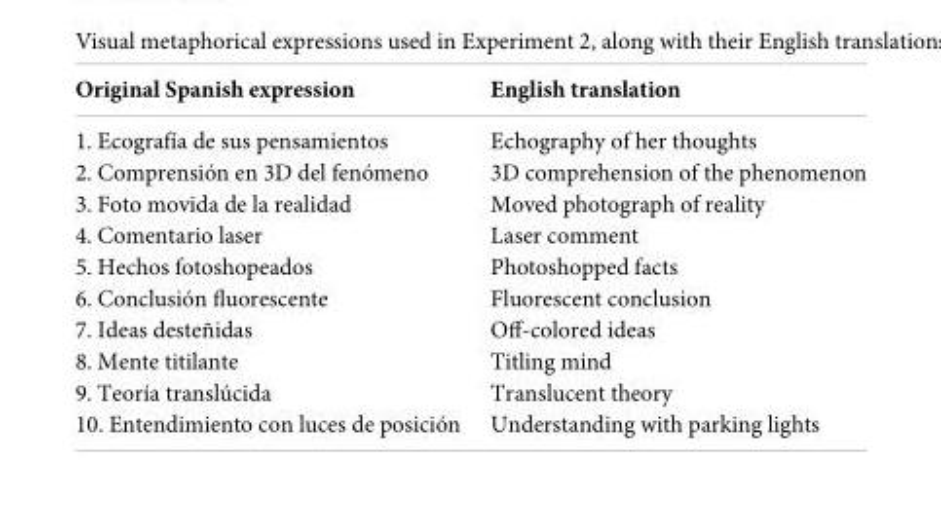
<table><thead><tr><td>Original Spanish expression</td><td>English translation</td></tr></thead><tbody><tr><td>1. Ecografía de sus pensamientos</td><td>Echography of her thoughts</td></tr><tr><td>2. Comprensión en 3D del fenómeno</td><td>3D comprehension of the phenomenon</td></tr><tr><td>3. Foto movida de la realidad</td><td>Moved photograph of reality</td></tr><tr><td>4. Comentario laser</td><td>Laser comment</td></tr><tr><td>5. Hechos fotoshopeados</td><td>Photoshopped facts</td></tr><tr><td>6. Conclusión fluorescente</td><td>Fluorescent conclusion</td></tr><tr><td>7. Ideas desteñidas</td><td>Off-colored ideas</td></tr><tr><td>8. Mente titilante</td><td>Titling mind</td></tr><tr><td>9. Teoría translúcida</td><td>Translucent theory</td></tr><tr><td>10. Entendimiento con luces de posición</td><td>Understanding with parking lights</td></tr></tbody></table>